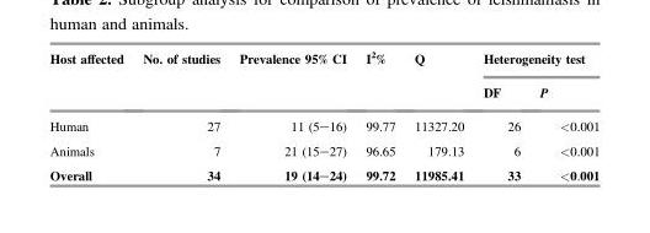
<table><thead><tr><td rowspan="2">Host affected</td><td rowspan="2">No. of studies</td><td rowspan="2">Prevalence 95% CI</td><td rowspan="2">I<sup>2</sup>%</td><td rowspan="2">Q</td><td colspan="2">Heterogeneity test</td></tr><tr><td>DF</td><td>P</td></tr></thead><tbody><tr><td>Human</td><td>27</td><td>11 (5–16)</td><td>99.77</td><td>11327.20</td><td>26</td><td>&lt;0.001</td></tr><tr><td>Animals</td><td>7</td><td>21 (15–27)</td><td>96.65</td><td>179.13</td><td>6</td><td>&lt;0.001</td></tr><tr><td>Overall</td><td>34</td><td>19 (14–24)</td><td>99.72</td><td>11985.41</td><td>33</td><td>&lt;0.001</td></tr></tbody></table>